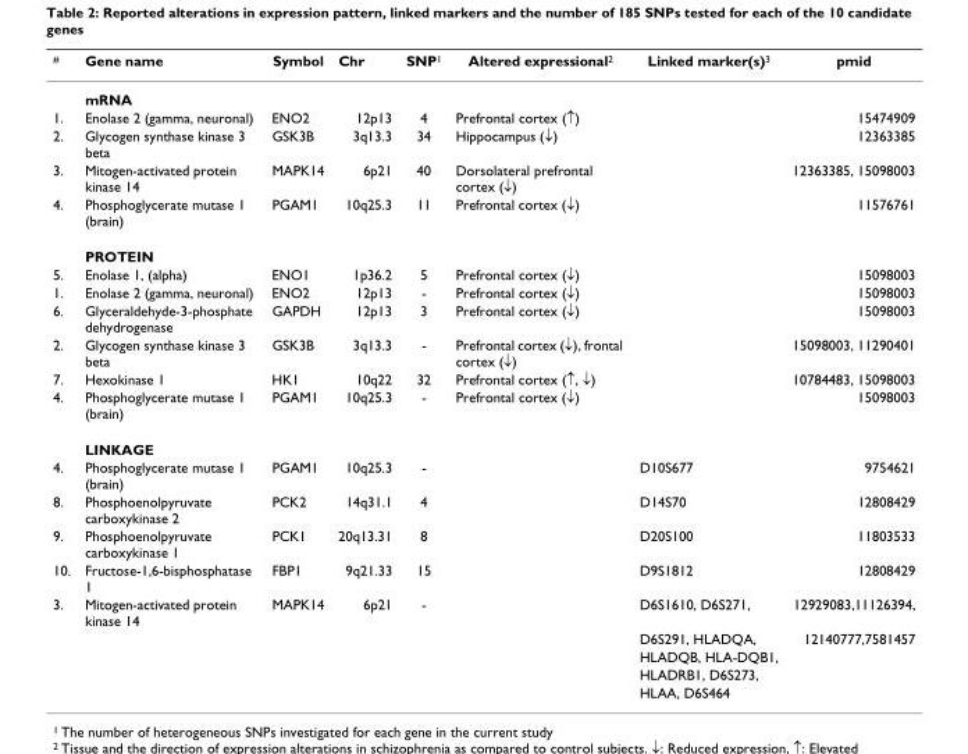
<table><thead><tr><td><sup>#</sup></td><td>Gene name</td><td>Symbol</td><td>Chr</td><td>SNP<sup>1</sup></td><td>Altered expressional<sup>2</sup></td><td>Linked marker(s)<sup>3</sup></td><td>pmid</td></tr></thead><tbody><tr><td></td><td>mRNA</td><td></td><td></td><td></td><td></td><td></td><td></td></tr><tr><td>1.</td><td>Enolase 2 (gamma, neuronal)</td><td>ENO2</td><td>12p13</td><td>4</td><td>Prefrontal cortex (↑)</td><td></td><td>15474909</td></tr><tr><td>2.</td><td>Glycogen synthase kinase 3 beta</td><td>GSK3B</td><td>3q13.3</td><td>34</td><td>Hippocampus (↓)</td><td></td><td>12363385</td></tr><tr><td>3.</td><td>Mitogen-activated protein kinase 14</td><td>MAPK14</td><td>6p21</td><td>40</td><td>Dorsolateral prefrontal cortex (↓)</td><td></td><td>12363385, 15098003</td></tr><tr><td rowspan="2">4.</td><td>Phosphoglycerate mutase 1 (brain)</td><td>PGAM1</td><td>10q25.3</td><td>11</td><td>Prefrontal cortex (↓)</td><td></td><td>11576761</td></tr><tr><td>PROTEIN</td><td></td><td></td><td></td><td></td><td></td><td></td></tr><tr><td>5.</td><td>Enolase 1, (alpha)</td><td>ENO1</td><td>1p36.2</td><td>5</td><td>Prefrontal cortex (↓)</td><td></td><td>15098003</td></tr><tr><td>1.</td><td>Enolase 2 (gamma, neuronal)</td><td>ENO2</td><td>12p13</td><td>-</td><td>Prefrontal cortex (↓)</td><td></td><td>15098003</td></tr><tr><td>6.</td><td>Glyceraldehyde-3-phosphate dehydrogenase</td><td>GAPDH</td><td>12p13</td><td>3</td><td>Prefrontal cortex (↓)</td><td></td><td>15098003</td></tr><tr><td>2.</td><td>Glycogen synthase kinase 3 beta</td><td>GSK3B</td><td>3q13.3</td><td>-</td><td>Prefrontal cortex (↓), frontal cortex (↓)</td><td></td><td>15098003, 11290401</td></tr><tr><td>7.</td><td>Hexokinase 1</td><td>HK1</td><td>10q22</td><td>32</td><td>Prefrontal cortex (↑, ↓)</td><td></td><td>10784483, 15098003</td></tr><tr><td rowspan="2">4.</td><td>Phosphoglycerate mutase 1 (brain)</td><td>PGAM1</td><td>10q25.3</td><td>-</td><td>Prefrontal cortex (↓)</td><td></td><td>15098003</td></tr><tr><td>LINKAGE</td><td></td><td></td><td></td><td></td><td></td><td></td></tr><tr><td>4.</td><td>Phosphoglycerate mutase 1 (brain)</td><td>PGAM1</td><td>10q25.3</td><td>-</td><td></td><td>D10S677</td><td>9754621</td></tr><tr><td>8.</td><td>Phosphoenolpyruvate carboxykinase 2</td><td>PCK2</td><td>14q31.1</td><td>4</td><td></td><td>D14S70</td><td>12808429</td></tr><tr><td>9.</td><td>Phosphoenolpyruvate carboxykinase 1</td><td>PCK1</td><td>20q13.31</td><td>8</td><td></td><td>D20S100</td><td>11803533</td></tr><tr><td>10.</td><td>Fructose-1,6-bisphosphatase 1</td><td>FBP1</td><td>9q21.33</td><td>15</td><td></td><td>D9S1812</td><td>12808429</td></tr><tr><td rowspan="5">3.</td><td>Mitogen-activated protein kinase 14</td><td>MAPK14</td><td>6p21</td><td>-</td><td></td><td>D6S1610, D6S271,</td><td>12929083,11126394,</td></tr><tr><td></td><td></td><td></td><td></td><td></td><td>D6S291, HLADQA,</td><td>12140777,7581457</td></tr><tr><td></td><td></td><td></td><td></td><td></td><td>HLADQB, HLA-DQB1,</td><td></td></tr><tr><td></td><td></td><td></td><td></td><td></td><td>HLADRB1, D6S273,</td><td></td></tr><tr><td></td><td></td><td></td><td></td><td></td><td>HLAA, D6S464</td><td></td></tr></tbody></table>